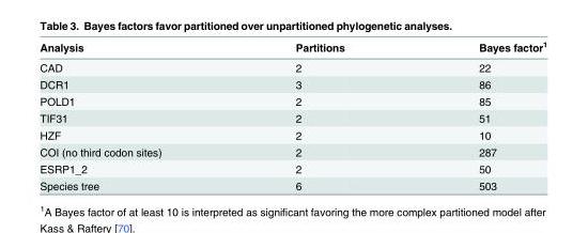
<table><thead><tr><td>Analysis</td><td>Partitions</td><td>Bayes factor<sup>1</sup></td></tr></thead><tbody><tr><td>CAD</td><td>2</td><td>22</td></tr><tr><td>DCR1</td><td>3</td><td>86</td></tr><tr><td>POLD1</td><td>2</td><td>85</td></tr><tr><td>TIF31</td><td>2</td><td>51</td></tr><tr><td>HZF</td><td>2</td><td>10</td></tr><tr><td>COI (no third codon sites)</td><td>2</td><td>287</td></tr><tr><td>ESRP1_2</td><td>2</td><td>50</td></tr><tr><td>Species tree</td><td>6</td><td>503</td></tr></tbody></table>